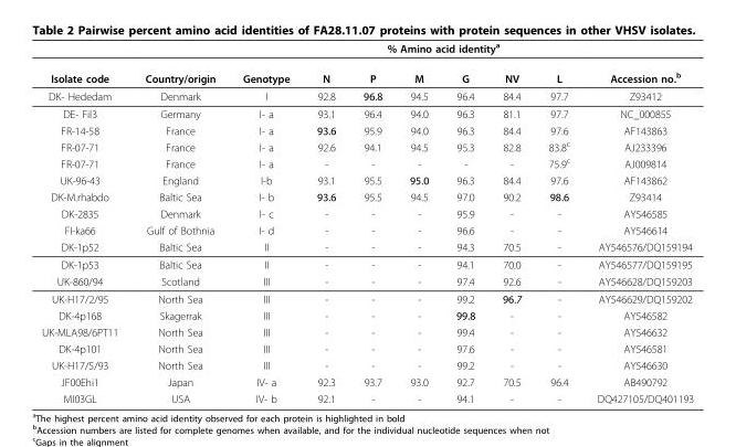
<table><thead><tr><td rowspan="2">Isolate code</td><td rowspan="2">Country/origin</td><td rowspan="2">Genotype</td><td colspan="6">% Amino acid identity<sup>a</sup></td><td rowspan="2">Accession no.<sup>b</sup></td></tr><tr><td>N</td><td>P</td><td>M</td><td>G</td><td>NV</td><td>L</td></tr></thead><tbody><tr><td>DK- Hededam</td><td>Denmark</td><td>I</td><td>92.8</td><td>96.8</td><td>94.5</td><td>96.4</td><td>84.4</td><td>97.7</td><td>Z93412</td></tr><tr><td>DE- Fil3</td><td>Germany</td><td>I- a</td><td>93.1</td><td>96.4</td><td>94.0</td><td>96.3</td><td>81.1</td><td>97.7</td><td>NC_000855</td></tr><tr><td>FR-14-58</td><td>France</td><td>I- a</td><td>93.6</td><td>95.9</td><td>94.0</td><td>96.3</td><td>84.4</td><td>97.6</td><td>AF143863</td></tr><tr><td>FR-07-71</td><td>France</td><td>I- a</td><td>92.6</td><td>94.1</td><td>94.5</td><td>95.3</td><td>82.8</td><td>83.8<sup>c</sup></td><td>AJ233396</td></tr><tr><td>FR-07-71</td><td>France</td><td>I- a</td><td>-</td><td>-</td><td>-</td><td>-</td><td>-</td><td>75.9<sup>c</sup></td><td>AJ009814</td></tr><tr><td>UK-96-43</td><td>England</td><td>I-b</td><td>93.1</td><td>95.5</td><td>95.0</td><td>96.3</td><td>84.4</td><td>97.6</td><td>AF143862</td></tr><tr><td>DK-M.rhabdo</td><td>Baltic Sea</td><td>I- b</td><td>93.6</td><td>95.5</td><td>94.5</td><td>97.0</td><td>90.2</td><td>98.6</td><td>Z93414</td></tr><tr><td>DK-2835</td><td>Denmark</td><td>I- c</td><td>-</td><td>-</td><td>-</td><td>95.9</td><td>-</td><td>-</td><td>AY546585</td></tr><tr><td>FI-ka66</td><td>Gulf of Bothnia</td><td>I- d</td><td>-</td><td>-</td><td>-</td><td>96.6</td><td>-</td><td>-</td><td>AY546614</td></tr><tr><td>DK-1p52</td><td>Baltic Sea</td><td>II</td><td>-</td><td>-</td><td>-</td><td>94.3</td><td>70.5</td><td>-</td><td>AY546576/DQ159194</td></tr><tr><td>DK-1p53</td><td>Baltic Sea</td><td>II</td><td>-</td><td>-</td><td>-</td><td>94.1</td><td>70.0</td><td>-</td><td>AY546577/DQ159195</td></tr><tr><td>UK-860/94</td><td>Scotland</td><td>III</td><td>-</td><td>-</td><td>-</td><td>97.4</td><td>92.6</td><td>-</td><td>AY546628/DQ159203</td></tr><tr><td>UK-H17/2/95</td><td>North Sea</td><td>III</td><td>-</td><td>-</td><td>-</td><td>99.2</td><td>96.7</td><td>-</td><td>AY546629/DQ159202</td></tr><tr><td>DK-4p168</td><td>Skagerrak</td><td>III</td><td>-</td><td>-</td><td>-</td><td>99.8</td><td>-</td><td>-</td><td>AY546582</td></tr><tr><td>UK-MLA98/6PT11</td><td>North Sea</td><td>III</td><td>-</td><td>-</td><td>-</td><td>99.4</td><td>-</td><td>-</td><td>AY546632</td></tr><tr><td>DK-4p101</td><td>North Sea</td><td>III</td><td>-</td><td>-</td><td>-</td><td>97.6</td><td>-</td><td>-</td><td>AY546581</td></tr><tr><td>UK-H17/5/93</td><td>North Sea</td><td>III</td><td>-</td><td>-</td><td>-</td><td>99.2</td><td>-</td><td>-</td><td>AY546630</td></tr><tr><td>JF00Ehi1</td><td>Japan</td><td>IV- a</td><td>92.3</td><td>93.7</td><td>93.0</td><td>92.7</td><td>70.5</td><td>96.4</td><td>AB490792</td></tr><tr><td>MI03GL</td><td>USA</td><td>IV- b</td><td>92.1</td><td>-</td><td>-</td><td>94.1</td><td>-</td><td>-</td><td>DQ427105/DQ401193</td></tr></tbody></table>